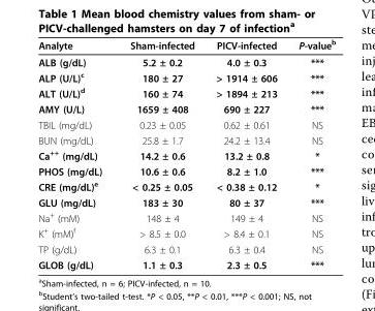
<table><thead><tr><td>Analyte</td><td>Sham-infected</td><td>PICV-infected</td><td>P-value<sup>b</sup></td></tr></thead><tbody><tr><td>ALB (g/dL)</td><td>5.2 ± 0.2</td><td>4.0 ± 0.3</td><td>***</td></tr><tr><td>ALP (U/L)<sup>c</sup></td><td>180 ± 27</td><td>&gt; 1914 ± 606</td><td>***</td></tr><tr><td>ALT (U/L)<sup>d</sup></td><td>160 ± 74</td><td>&gt; 1894 ± 213</td><td>***</td></tr><tr><td>AMY (U/L)</td><td>1659 ± 408</td><td>690 ± 227</td><td>***</td></tr><tr><td>TBIL (mg/dL)</td><td>0.23 ± 0.05</td><td>0.62 ± 0.61</td><td>NS</td></tr><tr><td>BUN (mg/dL)</td><td>25.8 ± 1.7</td><td>24.2 ± 13.4</td><td>NS</td></tr><tr><td>Ca<sup>++</sup> (mg/dL)</td><td>14.2 ± 0.6</td><td>13.2 ± 0.8</td><td>*</td></tr><tr><td>PHOS (mg/dL)</td><td>10.6 ± 0.6</td><td>8.2 ± 1.0</td><td>***</td></tr><tr><td>CRE (mg/dL)<sup>e</sup></td><td>&lt; 0.25 ± 0.05</td><td>&lt; 0.38 ± 0.12</td><td>*</td></tr><tr><td>GLU (mg/dL)</td><td>183 ± 30</td><td>80 ± 37</td><td>***</td></tr><tr><td>Na<sup>+</sup> (mM)</td><td>148 ± 4</td><td>149 ± 4</td><td>NS</td></tr><tr><td>K<sup>+</sup> (mM)<sup>f</sup></td><td>&gt; 8.5 ± 0.0</td><td>&gt; 8.4 ± 0.1</td><td>NS</td></tr><tr><td>TP (g/dL)</td><td>6.3 ± 0.1</td><td>6.3 ± 0.4</td><td>NS</td></tr><tr><td>GLOB (g/dL)</td><td>1.1 ± 0.3</td><td>2.3 ± 0.5</td><td>***</td></tr></tbody></table>